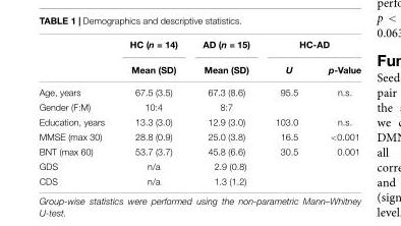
<table><thead><tr><td rowspan="2"></td><td rowspan="2">HC (n = 14) Mean (SD)</td><td rowspan="2">AD (n = 15) Mean (SD)</td><td colspan="2">HC-AD</td></tr><tr><td>U</td><td>p-Value</td></tr></thead><tbody><tr><td>Age, years</td><td>67.5 (3.5)</td><td>67.3 (8.6)</td><td>95.5</td><td>n.s.</td></tr><tr><td>Gender (F:M)</td><td>10:4</td><td>8:7</td><td></td><td></td></tr><tr><td>Education, years</td><td>13.3 (3.0)</td><td>12.9 (3.0)</td><td>103.0</td><td>n.s.</td></tr><tr><td>MMSE (max 30)</td><td>28.8 (0.9)</td><td>25.0 (3.8)</td><td>16.5</td><td>&lt;0.001</td></tr><tr><td>BNT (max 60)</td><td>53.7 (3.7)</td><td>45.8 (6.6)</td><td>30.5</td><td>0.001</td></tr><tr><td>GDS</td><td>n/a</td><td>2.9 (0.8)</td><td></td><td></td></tr><tr><td>CDS</td><td>n/a</td><td>1.3 (1.2)</td><td></td><td></td></tr></tbody></table>